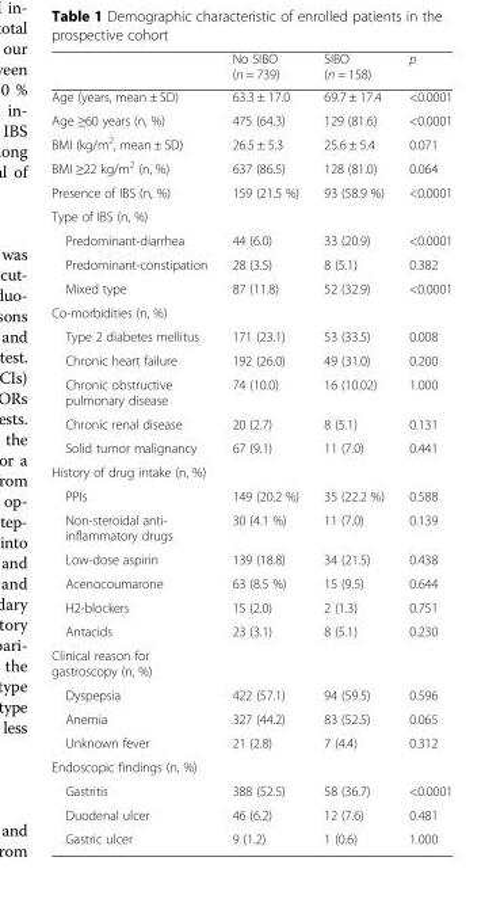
<table><thead><tr><td></td><td>No SIBO (n = 739)</td><td>SIBO (n = 158)</td><td>p</td></tr></thead><tbody><tr><td>Age (years, mean ± SD)</td><td>63.3 ± 17.0</td><td>69.7 ± 17.4</td><td>&lt;0.0001</td></tr><tr><td>Age ≥60 years (n, %)</td><td>475 (64.3)</td><td>129 (81.6)</td><td>&lt;0.0001</td></tr><tr><td>BMI (kg/m<sup>2</sup>, mean ± SD)</td><td>26.5 ± 5.3</td><td>25.6 ± 5.4</td><td>0.071</td></tr><tr><td>BMI ≥22 kg/m<sup>2</sup> (n, %)</td><td>637 (86.5)</td><td>128 (81.0)</td><td>0.064</td></tr><tr><td>Presence of IBS (n, %)</td><td>159 (21.5 %)</td><td>93 (58.9 %)</td><td>&lt;0.0001</td></tr><tr><td colspan="4">Type of IBS (n, %)</td></tr><tr><td>Predominant-diarrhea</td><td>44 (6.0)</td><td>33 (20.9)</td><td>&lt;0.0001</td></tr><tr><td>Predominant-constipation</td><td>28 (3.5)</td><td>8 (5.1)</td><td>0.382</td></tr><tr><td>Mixed type</td><td>87 (11.8)</td><td>52 (32.9)</td><td>&lt;0.0001</td></tr><tr><td colspan="4">Co-morbidities (n, %)</td></tr><tr><td>Type 2 diabetes mellitus</td><td>171 (23.1)</td><td>53 (33.5)</td><td>0.008</td></tr><tr><td>Chronic heart failure</td><td>192 (26.0)</td><td>49 (31.0)</td><td>0.200</td></tr><tr><td>Chronic obstructive pulmonary disease</td><td>74 (10.0)</td><td>16 (10.02)</td><td>1.000</td></tr><tr><td>Chronic renal disease</td><td>20 (2.7)</td><td>8 (5.1)</td><td>0.131</td></tr><tr><td>Solid tumor malignancy</td><td>67 (9.1)</td><td>11 (7.0)</td><td>0.441</td></tr><tr><td colspan="4">History of drug intake (n, %)</td></tr><tr><td>PPIs</td><td>149 (20.2 %)</td><td>35 (22.2 %)</td><td>0.588</td></tr><tr><td>Non-steroidal anti- inflammatory drugs</td><td>30 (4.1 %)</td><td>11 (7.0)</td><td>0.139</td></tr><tr><td>Low-dose aspirin</td><td>139 (18.8)</td><td>34 (21.5)</td><td>0.438</td></tr><tr><td>Acenocoumarone</td><td>63 (8.5 %)</td><td>15 (9.5)</td><td>0.644</td></tr><tr><td>H2-blockers</td><td>15 (2.0)</td><td>2 (1.3)</td><td>0.751</td></tr><tr><td>Antacids</td><td>23 (3.1)</td><td>8 (5.1)</td><td>0.230</td></tr><tr><td colspan="4">Clinical reason for gastroscopy (n, %)</td></tr><tr><td>Dyspepsia</td><td>422 (57.1)</td><td>94 (59.5)</td><td>0.596</td></tr><tr><td>Anemia</td><td>327 (44.2)</td><td>83 (52.5)</td><td>0.065</td></tr><tr><td>Unknown fever</td><td>21 (2.8)</td><td>7 (4.4)</td><td>0.312</td></tr><tr><td colspan="4">Endoscopic findings (n, %)</td></tr><tr><td>Gastritis</td><td>388 (52.5)</td><td>58 (36.7)</td><td>&lt;0.0001</td></tr><tr><td>Duodenal ulcer</td><td>46 (6.2)</td><td>12 (7.6)</td><td>0.481</td></tr><tr><td>Gastric ulcer</td><td>9 (1.2)</td><td>1 (0.6)</td><td>1.000</td></tr></tbody></table>